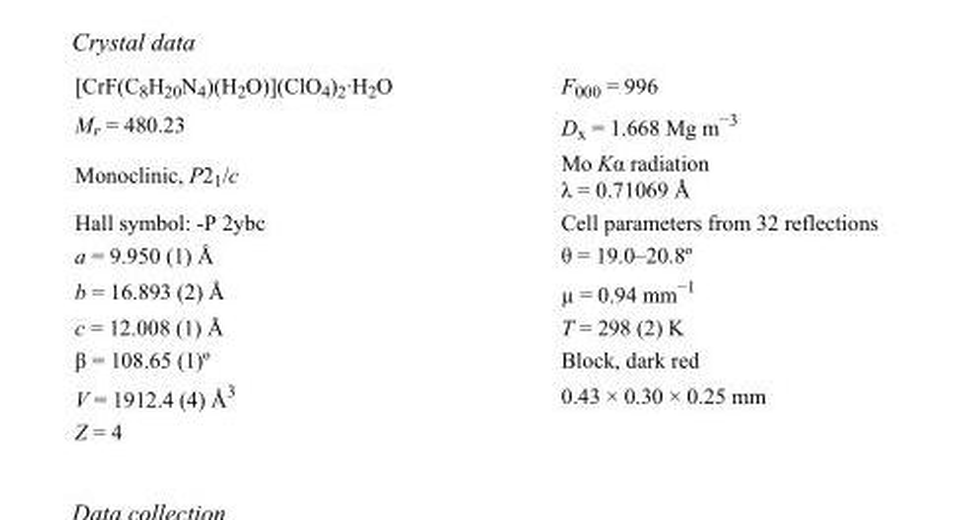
<table><tbody><tr><td>[CrF(C<sub>8</sub>H<sub>20</sub>N<sub>4</sub>)(H<sub>2</sub>O)](ClO<sub>4</sub>)<sub>2</sub>·H<sub>2</sub>O</td><td>F<sub>000</sub> = 996</td></tr><tr><td>M<sub>r</sub> = 480.23</td><td>D<sub>x</sub> = 1.668 Mg m<sup>−3</sup></td></tr><tr><td>Monoclinic, P2<sub>1</sub>/c</td><td>Mo Kα radiation λ = 0.71069 Å</td></tr><tr><td>Hall symbol: -P 2ybc</td><td>Cell parameters from 32 reflections</td></tr><tr><td>a = 9.950 (1) Å</td><td>θ = 19.0–20.8º</td></tr><tr><td>b = 16.893 (2) Å</td><td>µ = 0.94 mm<sup>−1</sup></td></tr><tr><td>c = 12.008 (1) Å</td><td>T = 298 (2) K</td></tr><tr><td>β = 108.65 (1)º</td><td>Block, dark red</td></tr><tr><td>V = 1912.4 (4) Å<sup>3</sup></td><td>0.43 × 0.30 × 0.25 mm</td></tr><tr><td>Z = 4</td><td></td></tr></tbody></table>